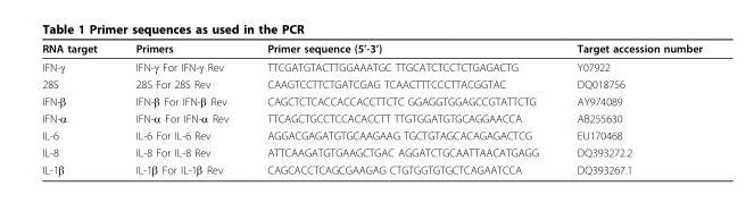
<table><thead><tr><td>RNA target</td><td>Primers</td><td>Primer sequence (5’-3’)</td><td>Target accession number</td></tr></thead><tbody><tr><td>IFN-γ</td><td>IFN-γ For IFN-γ Rev</td><td>TTCGATGTACTTGGAAATGC TTGCATCTCCTCTGAGACTG</td><td>Y07922</td></tr><tr><td>28S</td><td>28S For 28S Rev</td><td>CAAGTCCTTCTGATCGAG TCAACTTTCCCTTACGGTAC</td><td>DQ018756</td></tr><tr><td>IFN-β</td><td>IFN-β For IFN-β Rev</td><td>CAGCTCTCACCACCACCTTCTC GGAGGTGGAGCCGTATTCTG</td><td>AY974089</td></tr><tr><td>IFN-α</td><td>IFN-α For IFN-α Rev</td><td>TTCAGCTGCCTCCACACCTT TTGTGGATGTGCAGGAACCA</td><td>AB255630</td></tr><tr><td>IL-6</td><td>IL-6 For IL-6 Rev</td><td>AGGACGAGATGTGCAAGAAG TGCTGTAGCACAGAGACTCG</td><td>EU170468</td></tr><tr><td>IL-8</td><td>IL-8 For IL-8 Rev</td><td>ATTCAAGATGTGAAGCTGAC AGGATCTGCAATTAACATGAGG</td><td>DQ393272.2</td></tr><tr><td>IL-1β</td><td>IL-1β For IL-1β Rev</td><td>CAGCACCTCAGCGAAGAG CTGTGGTGTGCTCAGAATCCA</td><td>DQ393267.1</td></tr></tbody></table>